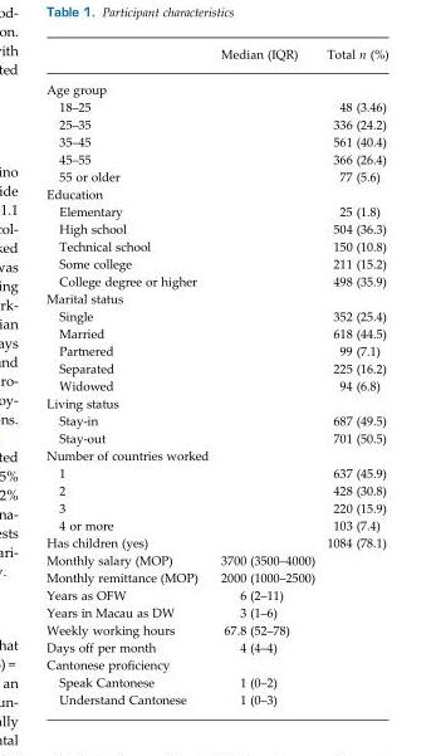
<table><thead><tr><td></td><td>Median (IQR)</td><td>Total n (%)</td></tr></thead><tbody><tr><td colspan="3">Age group</td></tr><tr><td>18–25</td><td></td><td>48 (3.46)</td></tr><tr><td>25–35</td><td></td><td>336 (24.2)</td></tr><tr><td>35–45</td><td></td><td>561 (40.4)</td></tr><tr><td>45–55</td><td></td><td>366 (26.4)</td></tr><tr><td>55 or older</td><td></td><td>77 (5.6)</td></tr><tr><td colspan="3">Education</td></tr><tr><td>Elementary</td><td></td><td>25 (1.8)</td></tr><tr><td>High school</td><td></td><td>504 (36.3)</td></tr><tr><td>Technical school</td><td></td><td>150 (10.8)</td></tr><tr><td>Some college</td><td></td><td>211 (15.2)</td></tr><tr><td>College degree or higher</td><td></td><td>498 (35.9)</td></tr><tr><td colspan="3">Marital status</td></tr><tr><td>Single</td><td></td><td>352 (25.4)</td></tr><tr><td>Married</td><td></td><td>618 (44.5)</td></tr><tr><td>Partnered</td><td></td><td>99 (7.1)</td></tr><tr><td>Separated</td><td></td><td>225 (16.2)</td></tr><tr><td>Widowed</td><td></td><td>94 (6.8)</td></tr><tr><td colspan="3">Living status</td></tr><tr><td>Stay-in</td><td></td><td>687 (49.5)</td></tr><tr><td>Stay-out</td><td></td><td>701 (50.5)</td></tr><tr><td colspan="3">Number of countries worked</td></tr><tr><td>1</td><td></td><td>637 (45.9)</td></tr><tr><td>2</td><td></td><td>428 (30.8)</td></tr><tr><td>3</td><td></td><td>220 (15.9)</td></tr><tr><td>4 or more</td><td></td><td>103 (7.4)</td></tr><tr><td>Has children (yes)</td><td></td><td>1084 (78.1)</td></tr><tr><td>Monthly salary (MOP)</td><td>3700 (3500–4000)</td><td></td></tr><tr><td>Monthly remittance (MOP)</td><td>2000 (1000–2500)</td><td></td></tr><tr><td>Years as OFW</td><td>6 (2–11)</td><td></td></tr><tr><td>Years in Macau as DW</td><td>3 (1–6)</td><td></td></tr><tr><td>Weekly working hours</td><td>67.8 (52–78)</td><td></td></tr><tr><td>Days off per month</td><td>4 (4–4)</td><td></td></tr><tr><td colspan="3">Cantonese proficiency</td></tr><tr><td>Speak Cantonese</td><td>1 (0–2)</td><td></td></tr><tr><td>Understand Cantonese</td><td>1 (0–3)</td><td></td></tr></tbody></table>